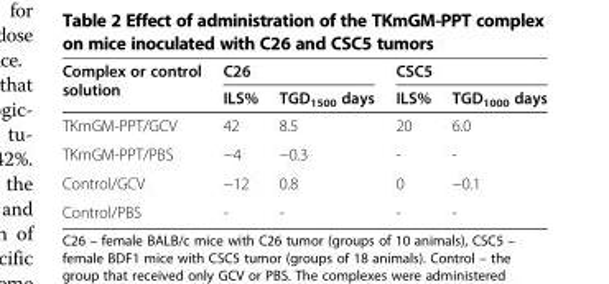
<table><thead><tr><td rowspan="2">Complex or control solution</td><td colspan="2">C26</td><td colspan="2">CSC5</td></tr><tr><td>ILS%</td><td>TGD<sub>1500</sub> days</td><td>ILS%</td><td>TGD<sub>1000</sub> days</td></tr></thead><tbody><tr><td>TKmGM-PPT/GCV</td><td>42</td><td>8.5</td><td>20</td><td>6.0</td></tr><tr><td>TKmGM-PPT/PBS</td><td>−4</td><td>−0.3</td><td>-</td><td>-</td></tr><tr><td>Control/GCV</td><td>−12</td><td>0.8</td><td>0</td><td>−0.1</td></tr><tr><td>Control/PBS</td><td>-</td><td>-</td><td>-</td><td>-</td></tr></tbody></table>